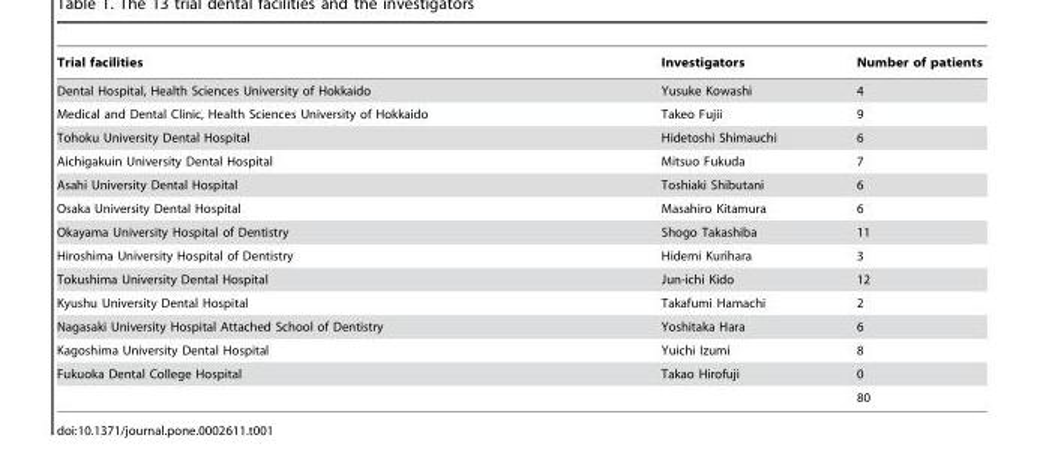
<table><thead><tr><td>Trial facilities</td><td>Investigators</td><td>Number of patients</td></tr></thead><tbody><tr><td>Dental Hospital, Health Sciences University of Hokkaido</td><td>Yusuke Kowashi</td><td>4</td></tr><tr><td>Medical and Dental Clinic, Health Sciences University of Hokkaido</td><td>Takeo Fujii</td><td>9</td></tr><tr><td>Tohoku University Dental Hospital</td><td>Hidetoshi Shimauchi</td><td>6</td></tr><tr><td>Aichigakuin University Dental Hospital</td><td>Mitsuo Fukuda</td><td>7</td></tr><tr><td>Asahi University Dental Hospital</td><td>Toshiaki Shibutani</td><td>6</td></tr><tr><td>Osaka University Dental Hospital</td><td>Masahiro Kitamura</td><td>6</td></tr><tr><td>Okayama University Hospital of Dentistry</td><td>Shogo Takashiba</td><td>11</td></tr><tr><td>Hiroshima University Hospital of Dentistry</td><td>Hidemi Kurihara</td><td>3</td></tr><tr><td>Tokushima University Dental Hospital</td><td>Jun-ichi Kido</td><td>12</td></tr><tr><td>Kyushu University Dental Hospital</td><td>Takafumi Hamachi</td><td>2</td></tr><tr><td>Nagasaki University Hospital Attached School of Dentistry</td><td>Yoshitaka Hara</td><td>6</td></tr><tr><td>Kagoshima University Dental Hospital</td><td>Yuichi Izumi</td><td>8</td></tr><tr><td rowspan="2">Fukuoka Dental College Hospital</td><td>Takao Hirofuji</td><td>0</td></tr><tr><td></td><td>80</td></tr></tbody></table>